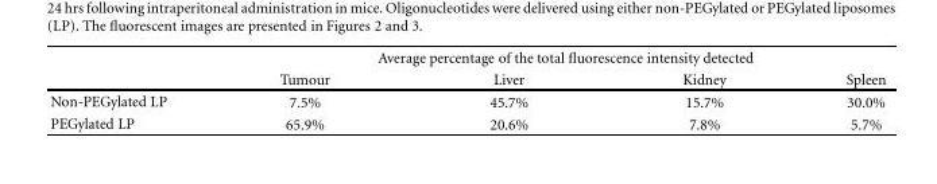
<table><thead><tr><td rowspan="2"></td><td colspan="4">Average percentage of the total fluorescence intensity detected</td></tr><tr><td>Tumour</td><td>Liver</td><td>Kidney</td><td>Spleen</td></tr></thead><tbody><tr><td>Non-PEGylated LP</td><td>7.5%</td><td>45.7%</td><td>15.7%</td><td>30.0%</td></tr><tr><td>PEGylated LP</td><td>65.9%</td><td>20.6%</td><td>7.8%</td><td>5.7%</td></tr></tbody></table>